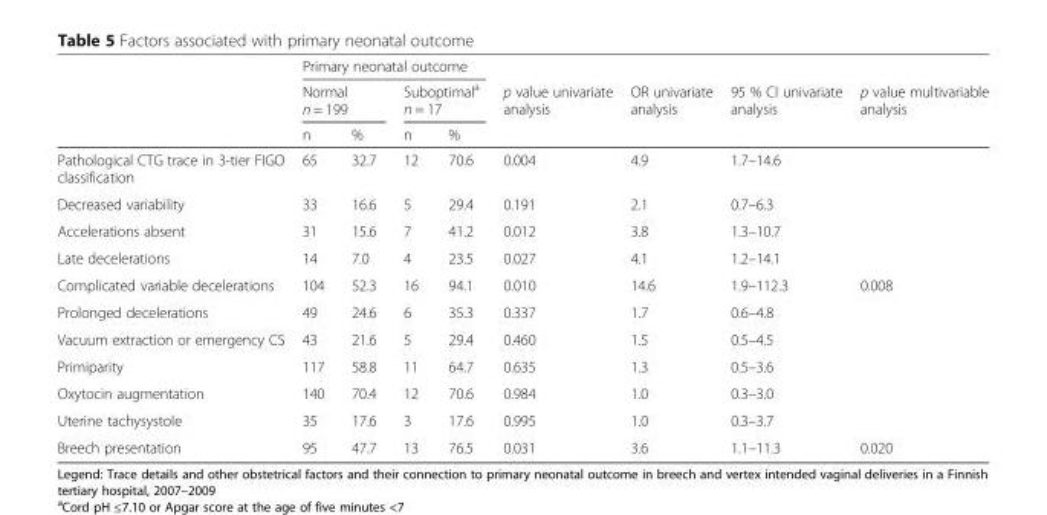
<table><thead><tr><td rowspan="3"></td><td colspan="4">Primary neonatal outcome</td><td rowspan="3">p value univariate analysis</td><td rowspan="3">OR univariate analysis</td><td rowspan="3">95 % CI univariate analysis</td><td rowspan="3">p value multivariable analysis</td></tr><tr><td colspan="2">Normal n = 199</td><td colspan="2">Suboptimal<sup>a</sup> n = 17</td></tr><tr><td>n</td><td>%</td><td>n</td><td>%</td></tr></thead><tbody><tr><td>Pathological CTG trace in 3-tier FIGO classification</td><td>65</td><td>32.7</td><td>12</td><td>70.6</td><td>0.004</td><td>4.9</td><td>1.7–14.6</td><td></td></tr><tr><td>Decreased variability</td><td>33</td><td>16.6</td><td>5</td><td>29.4</td><td>0.191</td><td>2.1</td><td>0.7–6.3</td><td></td></tr><tr><td>Accelerations absent</td><td>31</td><td>15.6</td><td>7</td><td>41.2</td><td>0.012</td><td>3.8</td><td>1.3–10.7</td><td></td></tr><tr><td>Late decelerations</td><td>14</td><td>7.0</td><td>4</td><td>23.5</td><td>0.027</td><td>4.1</td><td>1.2–14.1</td><td></td></tr><tr><td>Complicated variable decelerations</td><td>104</td><td>52.3</td><td>16</td><td>94.1</td><td>0.010</td><td>14.6</td><td>1.9–112.3</td><td>0.008</td></tr><tr><td>Prolonged decelerations</td><td>49</td><td>24.6</td><td>6</td><td>35.3</td><td>0.337</td><td>1.7</td><td>0.6–4.8</td><td></td></tr><tr><td>Vacuum extraction or emergency CS</td><td>43</td><td>21.6</td><td>5</td><td>29.4</td><td>0.460</td><td>1.5</td><td>0.5–4.5</td><td></td></tr><tr><td>Primiparity</td><td>117</td><td>58.8</td><td>11</td><td>64.7</td><td>0.635</td><td>1.3</td><td>0.5–3.6</td><td></td></tr><tr><td>Oxytocin augmentation</td><td>140</td><td>70.4</td><td>12</td><td>70.6</td><td>0.984</td><td>1.0</td><td>0.3–3.0</td><td></td></tr><tr><td>Uterine tachysystole</td><td>35</td><td>17.6</td><td>3</td><td>17.6</td><td>0.995</td><td>1.0</td><td>0.3–3.7</td><td></td></tr><tr><td>Breech presentation</td><td>95</td><td>47.7</td><td>13</td><td>76.5</td><td>0.031</td><td>3.6</td><td>1.1–11.3</td><td>0.020</td></tr></tbody></table>